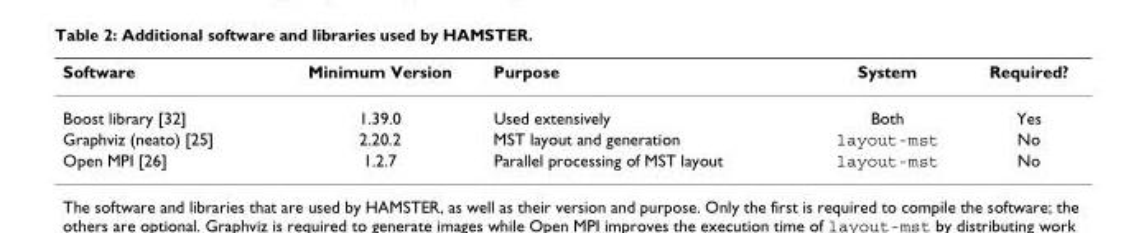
<table><thead><tr><td>Software</td><td>Minimum Version</td><td>Purpose</td><td>System</td><td>Required?</td></tr></thead><tbody><tr><td>Boost library [32]</td><td>1.39.0</td><td>Used extensively</td><td>Both</td><td>Yes</td></tr><tr><td>Graphviz (neato) [25]</td><td>2.20.2</td><td>MST layout and generation</td><td>layout-mst</td><td>No</td></tr><tr><td>Open MPI [26]</td><td>1.2.7</td><td>Parallel processing of MST layout</td><td>layout-mst</td><td>No</td></tr></tbody></table>